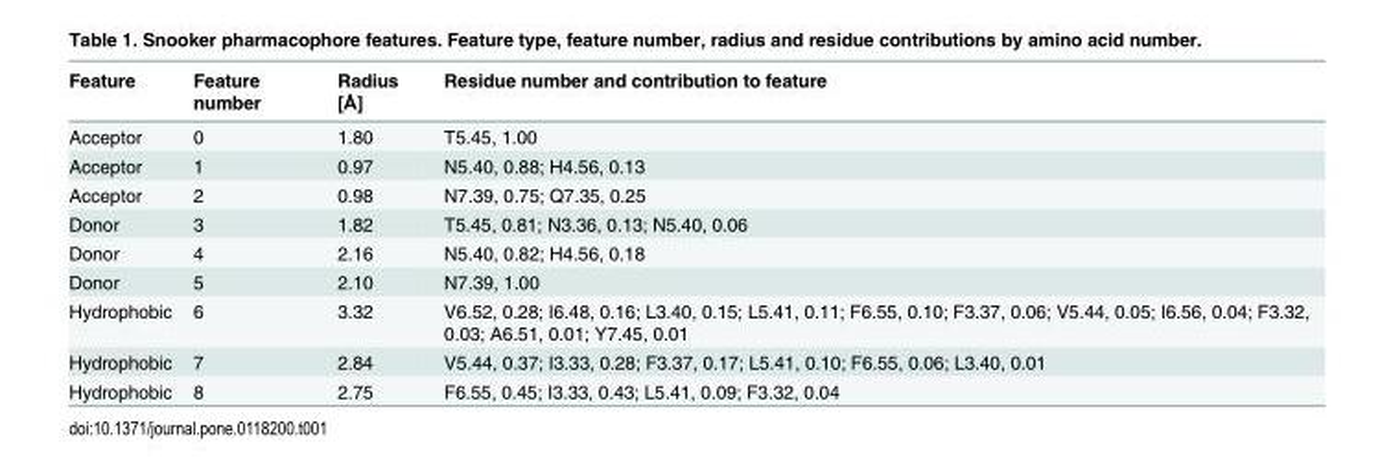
<table><thead><tr><td>Feature</td><td>Feature number</td><td>Radius [Å]</td><td>Residue number and contribution to feature</td></tr></thead><tbody><tr><td>Acceptor</td><td>0</td><td>1.80</td><td>T5.45, 1.00</td></tr><tr><td>Acceptor</td><td>1</td><td>0.97</td><td>N5.40, 0.88; H4.56, 0.13</td></tr><tr><td>Acceptor</td><td>2</td><td>0.98</td><td>N7.39, 0.75; Q7.35, 0.25</td></tr><tr><td>Donor</td><td>3</td><td>1.82</td><td>T5.45, 0.81; N3.36, 0.13; N5.40, 0.06</td></tr><tr><td>Donor</td><td>4</td><td>2.16</td><td>N5.40, 0.82; H4.56, 0.18</td></tr><tr><td>Donor</td><td>5</td><td>2.10</td><td>N7.39, 1.00</td></tr><tr><td>Hydrophobic</td><td>6</td><td>3.32</td><td>V6.52, 0.28; I6.48, 0.16; L3.40, 0.15; L5.41, 0.11; F6.55, 0.10; F3.37, 0.06; V5.44, 0.05; I6.56, 0.04; F3.32, 0.03; A6.51, 0.01; Y7.45, 0.01</td></tr><tr><td>Hydrophobic</td><td>7</td><td>2.84</td><td>V5.44, 0.37; I3.33, 0.28; F3.37, 0.17; L5.41, 0.10; F6.55, 0.06; L3.40, 0.01</td></tr><tr><td>Hydrophobic</td><td>8</td><td>2.75</td><td>F6.55, 0.45; I3.33, 0.43; L5.41, 0.09; F3.32, 0.04</td></tr></tbody></table>